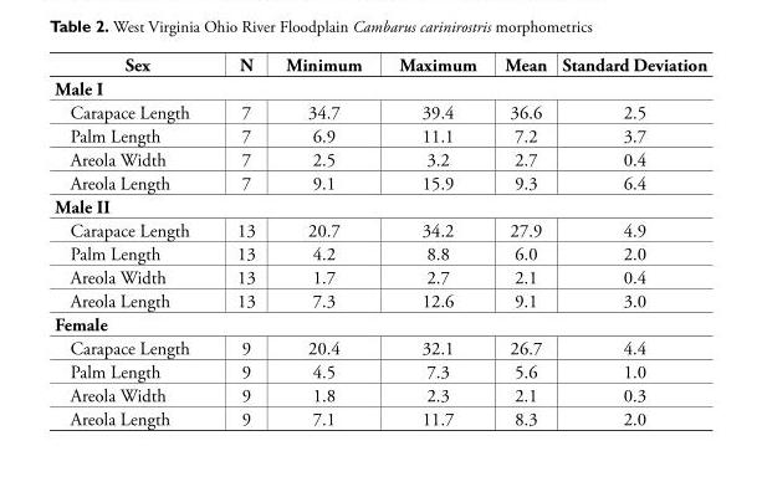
<table><thead><tr><td>Sex</td><td>N</td><td>Minimum</td><td>Maximum</td><td>Mean</td><td>Standard Deviation</td></tr></thead><tbody><tr><td colspan="6">Male I</td></tr><tr><td>Carapace Length</td><td>7</td><td>34.7</td><td>39.4</td><td>36.6</td><td>2.5</td></tr><tr><td>Palm Length</td><td>7</td><td>6.9</td><td>11.1</td><td>7.2</td><td>3.7</td></tr><tr><td>Areola Width</td><td>7</td><td>2.5</td><td>3.2</td><td>2.7</td><td>0.4</td></tr><tr><td>Areola Length</td><td>7</td><td>9.1</td><td>15.9</td><td>9.3</td><td>6.4</td></tr><tr><td colspan="6">Male II</td></tr><tr><td>Carapace Length</td><td>13</td><td>20.7</td><td>34.2</td><td>27.9</td><td>4.9</td></tr><tr><td>Palm Length</td><td>13</td><td>4.2</td><td>8.8</td><td>6.0</td><td>2.0</td></tr><tr><td>Areola Width</td><td>13</td><td>1.7</td><td>2.7</td><td>2.1</td><td>0.4</td></tr><tr><td>Areola Length</td><td>13</td><td>7.3</td><td>12.6</td><td>9.1</td><td>3.0</td></tr><tr><td colspan="6">Female</td></tr><tr><td>Carapace Length</td><td>9</td><td>20.4</td><td>32.1</td><td>26.7</td><td>4.4</td></tr><tr><td>Palm Length</td><td>9</td><td>4.5</td><td>7.3</td><td>5.6</td><td>1.0</td></tr><tr><td>Areola Width</td><td>9</td><td>1.8</td><td>2.3</td><td>2.1</td><td>0.3</td></tr><tr><td>Areola Length</td><td>9</td><td>7.1</td><td>11.7</td><td>8.3</td><td>2.0</td></tr></tbody></table>